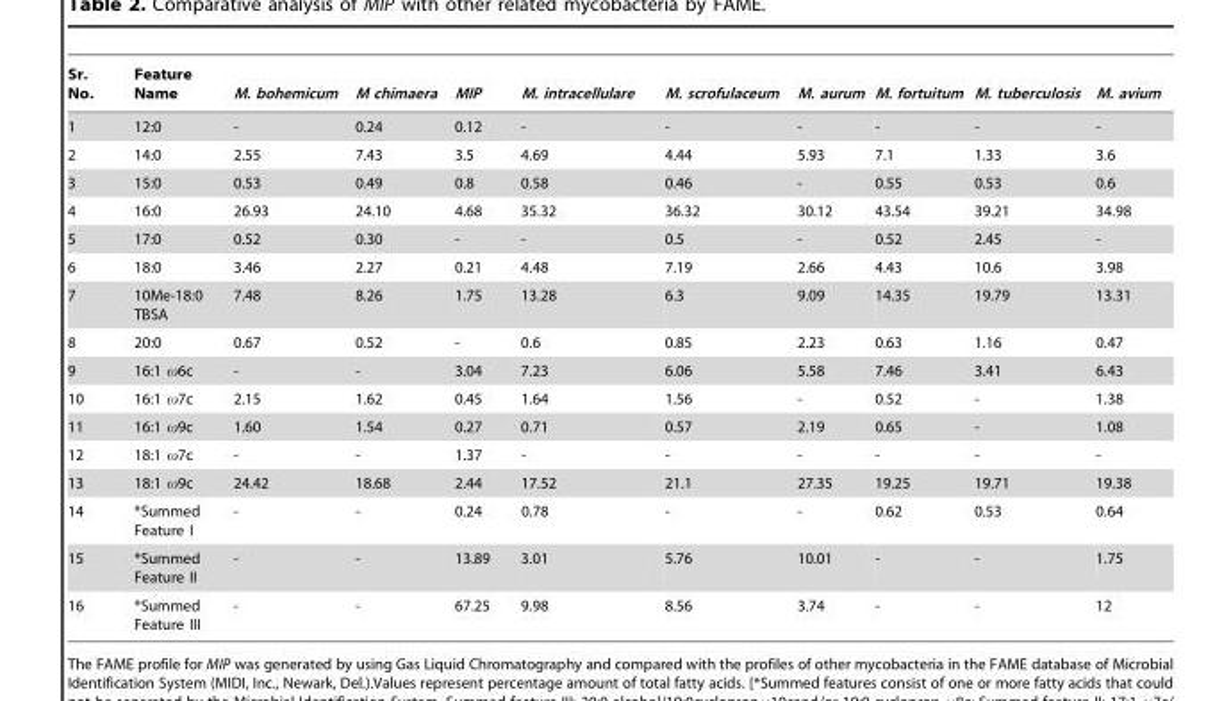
<table><thead><tr><td>Sr. No.</td><td>Feature Name</td><td>M. bohemicum</td><td>M chimaera</td><td>MIP</td><td>M. intracellulare</td><td>M. scrofulaceum</td><td>M. aurum</td><td>M. fortuitum</td><td>M. tuberculosis</td><td>M. avium</td></tr></thead><tbody><tr><td>1</td><td>12:0</td><td>-</td><td>0.24</td><td>0.12</td><td>-</td><td>-</td><td>-</td><td>-</td><td>-</td><td>-</td></tr><tr><td>2</td><td>14:0</td><td>2.55</td><td>7.43</td><td>3.5</td><td>4.69</td><td>4.44</td><td>5.93</td><td>7.1</td><td>1.33</td><td>3.6</td></tr><tr><td>3</td><td>15:0</td><td>0.53</td><td>0.49</td><td>0.8</td><td>0.58</td><td>0.46</td><td>-</td><td>0.55</td><td>0.53</td><td>0.6</td></tr><tr><td>4</td><td>16:0</td><td>26.93</td><td>24.10</td><td>4.68</td><td>35.32</td><td>36.32</td><td>30.12</td><td>43.54</td><td>39.21</td><td>34.98</td></tr><tr><td>5</td><td>17:0</td><td>0.52</td><td>0.30</td><td>-</td><td>-</td><td>0.5</td><td>-</td><td>0.52</td><td>2.45</td><td>-</td></tr><tr><td>6</td><td>18:0</td><td>3.46</td><td>2.27</td><td>0.21</td><td>4.48</td><td>7.19</td><td>2.66</td><td>4.43</td><td>10.6</td><td>3.98</td></tr><tr><td>7</td><td>10Me-18:0 TBSA</td><td>7.48</td><td>8.26</td><td>1.75</td><td>13.28</td><td>6.3</td><td>9.09</td><td>14.35</td><td>19.79</td><td>13.31</td></tr><tr><td>8</td><td>20:0</td><td>0.67</td><td>0.52</td><td>-</td><td>0.6</td><td>0.85</td><td>2.23</td><td>0.63</td><td>1.16</td><td>0.47</td></tr><tr><td>9</td><td>16:1 ω6c</td><td>-</td><td>-</td><td>3.04</td><td>7.23</td><td>6.06</td><td>5.58</td><td>7.46</td><td>3.41</td><td>6.43</td></tr><tr><td>10</td><td>16:1 ω7c</td><td>2.15</td><td>1.62</td><td>0.45</td><td>1.64</td><td>1.56</td><td>-</td><td>0.52</td><td>-</td><td>1.38</td></tr><tr><td>11</td><td>16:1 ω9c</td><td>1.60</td><td>1.54</td><td>0.27</td><td>0.71</td><td>0.57</td><td>2.19</td><td>0.65</td><td>-</td><td>1.08</td></tr><tr><td>12</td><td>18:1 ω7c</td><td>-</td><td>-</td><td>1.37</td><td>-</td><td>-</td><td>-</td><td>-</td><td>-</td><td>-</td></tr><tr><td>13</td><td>18:1 ω9c</td><td>24.42</td><td>18.68</td><td>2.44</td><td>17.52</td><td>21.1</td><td>27.35</td><td>19.25</td><td>19.71</td><td>19.38</td></tr><tr><td>14</td><td>*Summed Feature I</td><td>-</td><td>-</td><td>0.24</td><td>0.78</td><td>-</td><td>-</td><td>0.62</td><td>0.53</td><td>0.64</td></tr><tr><td>15</td><td>*Summed Feature II</td><td>-</td><td>-</td><td>13.89</td><td>3.01</td><td>5.76</td><td>10.01</td><td>-</td><td>-</td><td>1.75</td></tr><tr><td>16</td><td>*Summed Feature III</td><td>-</td><td>-</td><td>67.25</td><td>9.98</td><td>8.56</td><td>3.74</td><td>-</td><td>-</td><td>12</td></tr></tbody></table>